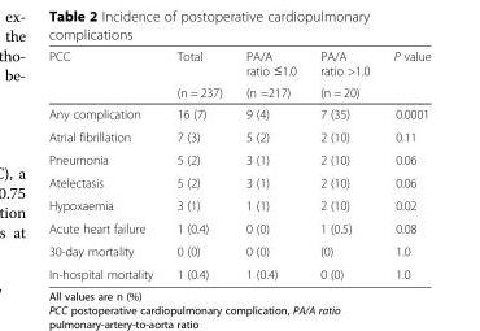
<table><thead><tr><td rowspan="2">PCC</td><td rowspan="2">Total (n = 237)</td><td rowspan="2">PA/A ratio ≤1.0 (n =217)</td><td rowspan="2">PA/A ratio &gt;1.0 (n = 20)</td><td rowspan="2">P value</td></tr><tr></tr></thead><tbody><tr><td>Any complication</td><td>16 (7)</td><td>9 (4)</td><td>7 (35)</td><td>0.0001</td></tr><tr><td>Atrial fibrillation</td><td>7 (3)</td><td>5 (2)</td><td>2 (10)</td><td>0.11</td></tr><tr><td>Pneumonia</td><td>5 (2)</td><td>3 (1)</td><td>2 (10)</td><td>0.06</td></tr><tr><td>Atelectasis</td><td>5 (2)</td><td>3 (1)</td><td>2 (10)</td><td>0.06</td></tr><tr><td>Hypoxaemia</td><td>3 (1)</td><td>1 (1)</td><td>2 (10)</td><td>0.02</td></tr><tr><td>Acute heart failure</td><td>1 (0.4)</td><td>0 (0)</td><td>1 (0.5)</td><td>0.08</td></tr><tr><td>30-day mortality</td><td>0 (0)</td><td>0 (0)</td><td>(0)</td><td>1.0</td></tr><tr><td>In-hospital mortality</td><td>1 (0.4)</td><td>1 (0.4)</td><td>0 (0)</td><td>1.0</td></tr></tbody></table>